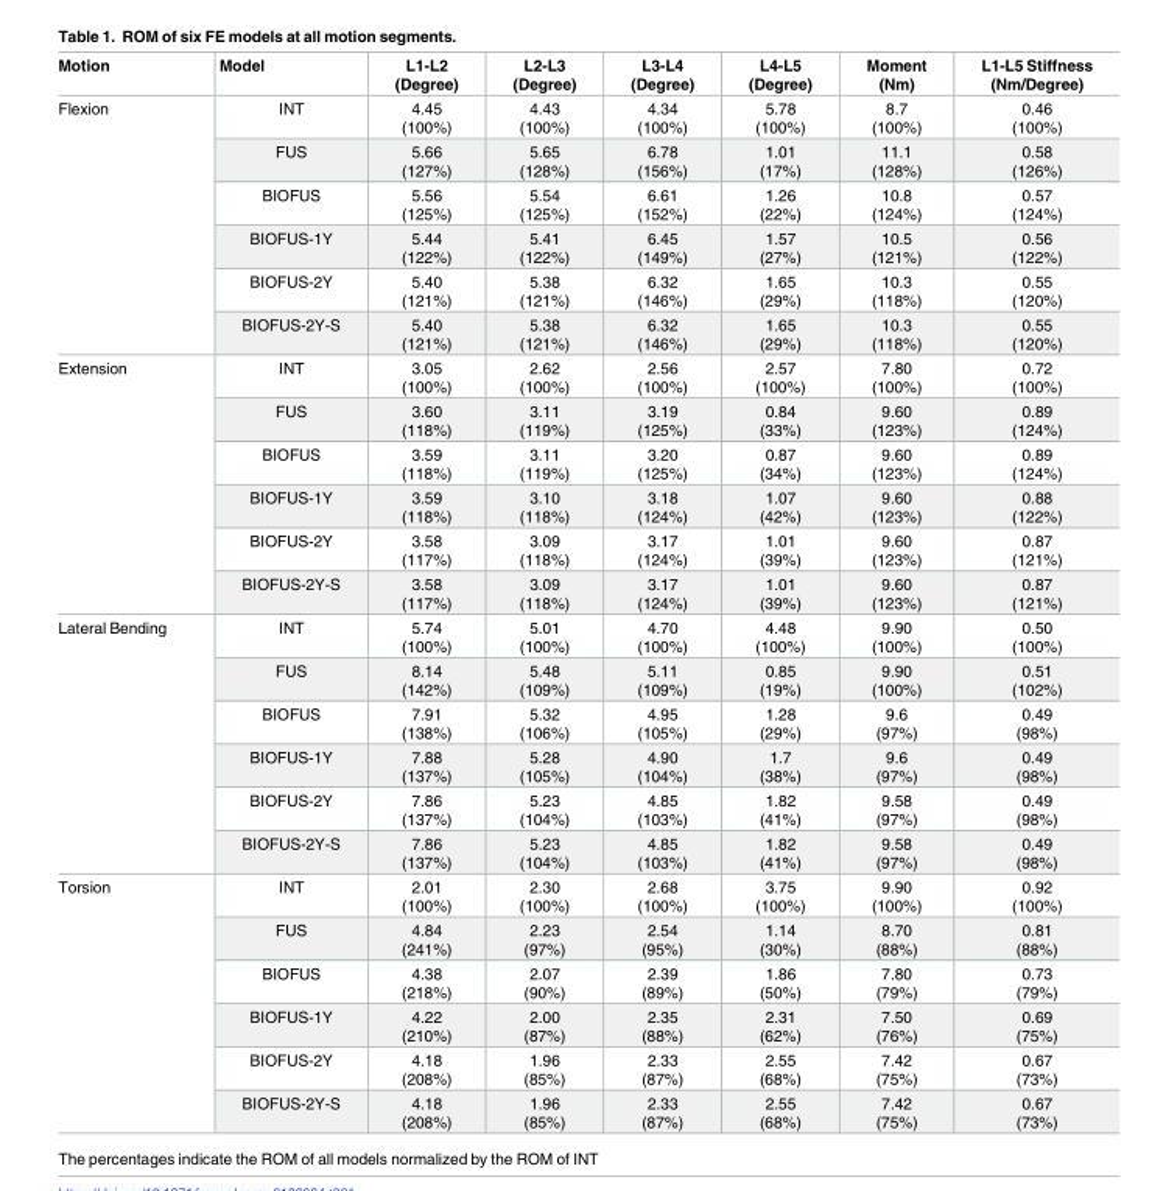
<table><thead><tr><td>Motion</td><td>Model</td><td>L1-L2 (Degree)</td><td>L2-L3 (Degree)</td><td>L3-L4 (Degree)</td><td>L4-L5 (Degree)</td><td>Moment (Nm)</td><td>L1-L5 Stiffness (Nm/Degree)</td></tr></thead><tbody><tr><td rowspan="6">Flexion</td><td>INT</td><td>4.45 (100%)</td><td>4.43 (100%)</td><td>4.34 (100%)</td><td>5.78 (100%)</td><td>8.7 (100%)</td><td>0.46 (100%)</td></tr><tr><td>FUS</td><td>5.66 (127%)</td><td>5.65 (128%)</td><td>6.78 (156%)</td><td>1.01 (17%)</td><td>11.1 (128%)</td><td>0.58 (126%)</td></tr><tr><td>BIOFUS</td><td>5.56 (125%)</td><td>5.54 (125%)</td><td>6.61 (152%)</td><td>1.26 (22%)</td><td>10.8 (124%)</td><td>0.57 (124%)</td></tr><tr><td>BIOFUS-1Y</td><td>5.44 (122%)</td><td>5.41 (122%)</td><td>6.45 (149%)</td><td>1.57 (27%)</td><td>10.5 (121%)</td><td>0.56 (122%)</td></tr><tr><td>BIOFUS-2Y</td><td>5.40 (121%)</td><td>5.38 (121%)</td><td>6.32 (146%)</td><td>1.65 (29%)</td><td>10.3 (118%)</td><td>0.55 (120%)</td></tr><tr><td>BIOFUS-2Y-S</td><td>5.40 (121%)</td><td>5.38 (121%)</td><td>6.32 (146%)</td><td>1.65 (29%)</td><td>10.3 (118%)</td><td>0.55 (120%)</td></tr><tr><td rowspan="6">Extension</td><td>INT</td><td>3.05 (100%)</td><td>2.62 (100%)</td><td>2.56 (100%)</td><td>2.57 (100%)</td><td>7.80 (100%)</td><td>0.72 (100%)</td></tr><tr><td>FUS</td><td>3.60 (118%)</td><td>3.11 (119%)</td><td>3.19 (125%)</td><td>0.84 (33%)</td><td>9.60 (123%)</td><td>0.89 (124%)</td></tr><tr><td>BIOFUS</td><td>3.59 (118%)</td><td>3.11 (119%)</td><td>3.20 (125%)</td><td>0.87 (34%)</td><td>9.60 (123%)</td><td>0.89 (124%)</td></tr><tr><td>BIOFUS-1Y</td><td>3.59 (118%)</td><td>3.10 (118%)</td><td>3.18 (124%)</td><td>1.07 (42%)</td><td>9.60 (123%)</td><td>0.88 (122%)</td></tr><tr><td>BIOFUS-2Y</td><td>3.58 (117%)</td><td>3.09 (118%)</td><td>3.17 (124%)</td><td>1.01 (39%)</td><td>9.60 (123%)</td><td>0.87 (121%)</td></tr><tr><td>BIOFUS-2Y-S</td><td>3.58 (117%)</td><td>3.09 (118%)</td><td>3.17 (124%)</td><td>1.01 (39%)</td><td>9.60 (123%)</td><td>0.87 (121%)</td></tr><tr><td rowspan="6">Lateral Bending</td><td>INT</td><td>5.74 (100%)</td><td>5.01 (100%)</td><td>4.70 (100%)</td><td>4.48 (100%)</td><td>9.90 (100%)</td><td>0.50 (100%)</td></tr><tr><td>FUS</td><td>8.14 (142%)</td><td>5.48 (109%)</td><td>5.11 (109%)</td><td>0.85 (19%)</td><td>9.90 (100%)</td><td>0.51 (102%)</td></tr><tr><td>BIOFUS</td><td>7.91 (138%)</td><td>5.32 (106%)</td><td>4.95 (105%)</td><td>1.28 (29%)</td><td>9.6 (97%)</td><td>0.49 (98%)</td></tr><tr><td>BIOFUS-1Y</td><td>7.88 (137%)</td><td>5.28 (105%)</td><td>4.90 (104%)</td><td>1.7 (38%)</td><td>9.6 (97%)</td><td>0.49 (98%)</td></tr><tr><td>BIOFUS-2Y</td><td>7.86 (137%)</td><td>5.23 (104%)</td><td>4.85 (103%)</td><td>1.82 (41%)</td><td>9.58 (97%)</td><td>0.49 (98%)</td></tr><tr><td>BIOFUS-2Y-S</td><td>7.86 (137%)</td><td>5.23 (104%)</td><td>4.85 (103%)</td><td>1.82 (41%)</td><td>9.58 (97%)</td><td>0.49 (98%)</td></tr><tr><td rowspan="6">Torsion</td><td>INT</td><td>2.01 (100%)</td><td>2.30 (100%)</td><td>2.68 (100%)</td><td>3.75 (100%)</td><td>9.90 (100%)</td><td>0.92 (100%)</td></tr><tr><td>FUS</td><td>4.84 (241%)</td><td>2.23 (97%)</td><td>2.54 (95%)</td><td>1.14 (30%)</td><td>8.70 (88%)</td><td>0.81 (88%)</td></tr><tr><td>BIOFUS</td><td>4.38 (218%)</td><td>2.07 (90%)</td><td>2.39 (89%)</td><td>1.86 (50%)</td><td>7.80 (79%)</td><td>0.73 (79%)</td></tr><tr><td>BIOFUS-1Y</td><td>4.22 (210%)</td><td>2.00 (87%)</td><td>2.35 (88%)</td><td>2.31 (62%)</td><td>7.50 (76%)</td><td>0.69 (75%)</td></tr><tr><td>BIOFUS-2Y</td><td>4.18 (208%)</td><td>1.96 (85%)</td><td>2.33 (87%)</td><td>2.55 (68%)</td><td>7.42 (75%)</td><td>0.67 (73%)</td></tr><tr><td>BIOFUS-2Y-S</td><td>4.18 (208%)</td><td>1.96 (85%)</td><td>2.33 (87%)</td><td>2.55 (68%)</td><td>7.42 (75%)</td><td>0.67 (73%)</td></tr></tbody></table>